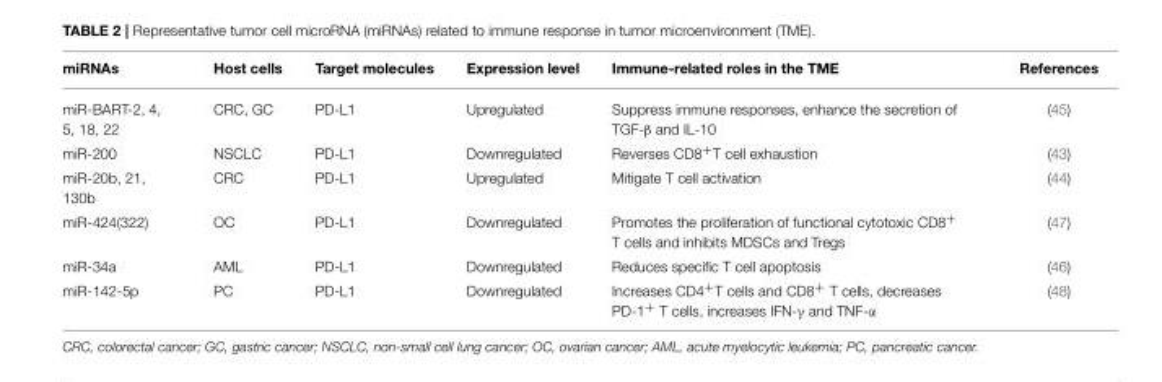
<table><thead><tr><td>miRNAs</td><td>Host cells</td><td>Target molecules</td><td>Expression level</td><td>Immune-related roles in the TME</td><td>References</td></tr></thead><tbody><tr><td>miR-BART-2, 4, 5, 18, 22</td><td>CRC, GC</td><td>PD-L1</td><td>Upregulated</td><td>Suppress immune responses, enhance the secretion of TGF-β and IL-10</td><td>(45)</td></tr><tr><td>miR-200</td><td>NSCLC</td><td>PD-L1</td><td>Downregulated</td><td>Reverses CD8<sup>+</sup>T cell exhaustion</td><td>(43)</td></tr><tr><td>miR-20b, 21, 130b</td><td>CRC</td><td>PD-L1</td><td>Upregulated</td><td>Mitigate T cell activation</td><td>(44)</td></tr><tr><td>miR-424(322)</td><td>OC</td><td>PD-L1</td><td>Downregulated</td><td>Promotes the proliferation of functional cytotoxic CD8<sup>+</sup> T cells and inhibits MDSCs and Tregs</td><td>(47)</td></tr><tr><td>miR-34a</td><td>AML</td><td>PD-L1</td><td>Downregulated</td><td>Reduces specific T cell apoptosis</td><td>(46)</td></tr><tr><td>miR-142-5p</td><td>PC</td><td>PD-L1</td><td>Downregulated</td><td>Increases CD4<sup>+</sup>T cells and CD8<sup>+</sup> T cells, decreases PD-1<sup>+</sup> T cells, increases IFN-γ and TNF-α</td><td>(48)</td></tr></tbody></table>